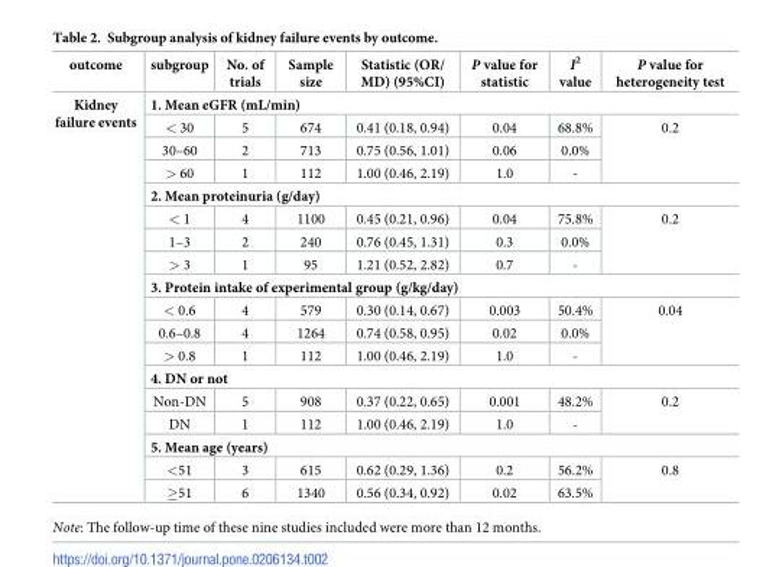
<table><thead><tr><td>outcome</td><td>subgroup</td><td>No. of trials</td><td>Sample size</td><td>Statistic (OR/ MD) (95%CI)</td><td>P value for statistic</td><td>I<sup>2</sup> value</td><td>P value for heterogeneity test</td></tr></thead><tbody><tr><td rowspan="18">Kidney failure events</td><td colspan="7">1. Mean eGFR (mL/min)</td></tr><tr><td>&lt; 30</td><td>5</td><td>674</td><td>0.41 (0.18, 0.94)</td><td>0.04</td><td>68.8%</td><td rowspan="3">0.2</td></tr><tr><td>30–60</td><td>2</td><td>713</td><td>0.75 (0.56, 1.01)</td><td>0.06</td><td>0.0%</td></tr><tr><td>&gt; 60</td><td>1</td><td>112</td><td>1.00 (0.46, 2.19)</td><td>1.0</td><td>-</td></tr><tr><td colspan="7">2. Mean proteinuria (g/day)</td></tr><tr><td>&lt; 1</td><td>4</td><td>1100</td><td>0.45 (0.21, 0.96)</td><td>0.04</td><td>75.8%</td><td rowspan="3">0.2</td></tr><tr><td>1–3</td><td>2</td><td>240</td><td>0.76 (0.45, 1.31)</td><td>0.3</td><td>0.0%</td></tr><tr><td>&gt; 3</td><td>1</td><td>95</td><td>1.21 (0.52, 2.82)</td><td>0.7</td><td>-</td></tr><tr><td colspan="7">3. Protein intake of experimental group (g/kg/day)</td></tr><tr><td>&lt; 0.6</td><td>4</td><td>579</td><td>0.30 (0.14, 0.67)</td><td>0.003</td><td>50.4%</td><td rowspan="3">0.04</td></tr><tr><td>0.6–0.8</td><td>4</td><td>1264</td><td>0.74 (0.58, 0.95)</td><td>0.02</td><td>0.0%</td></tr><tr><td>&gt; 0.8</td><td>1</td><td>112</td><td>1.00 (0.46, 2.19)</td><td>1.0</td><td>-</td></tr><tr><td colspan="7">4. DN or not</td></tr><tr><td>Non-DN</td><td>5</td><td>908</td><td>0.37 (0.22, 0.65)</td><td>0.001</td><td>48.2%</td><td rowspan="2">0.2</td></tr><tr><td>DN</td><td>1</td><td>112</td><td>1.00 (0.46, 2.19)</td><td>1.0</td><td>-</td></tr><tr><td colspan="7">5. Mean age (years)</td></tr><tr><td>&lt;51</td><td>3</td><td>615</td><td>0.62 (0.29, 1.36)</td><td>0.2</td><td>56.2%</td><td rowspan="2">0.8</td></tr><tr><td>≥51</td><td>6</td><td>1340</td><td>0.56 (0.34, 0.92)</td><td>0.02</td><td>63.5%</td></tr></tbody></table>